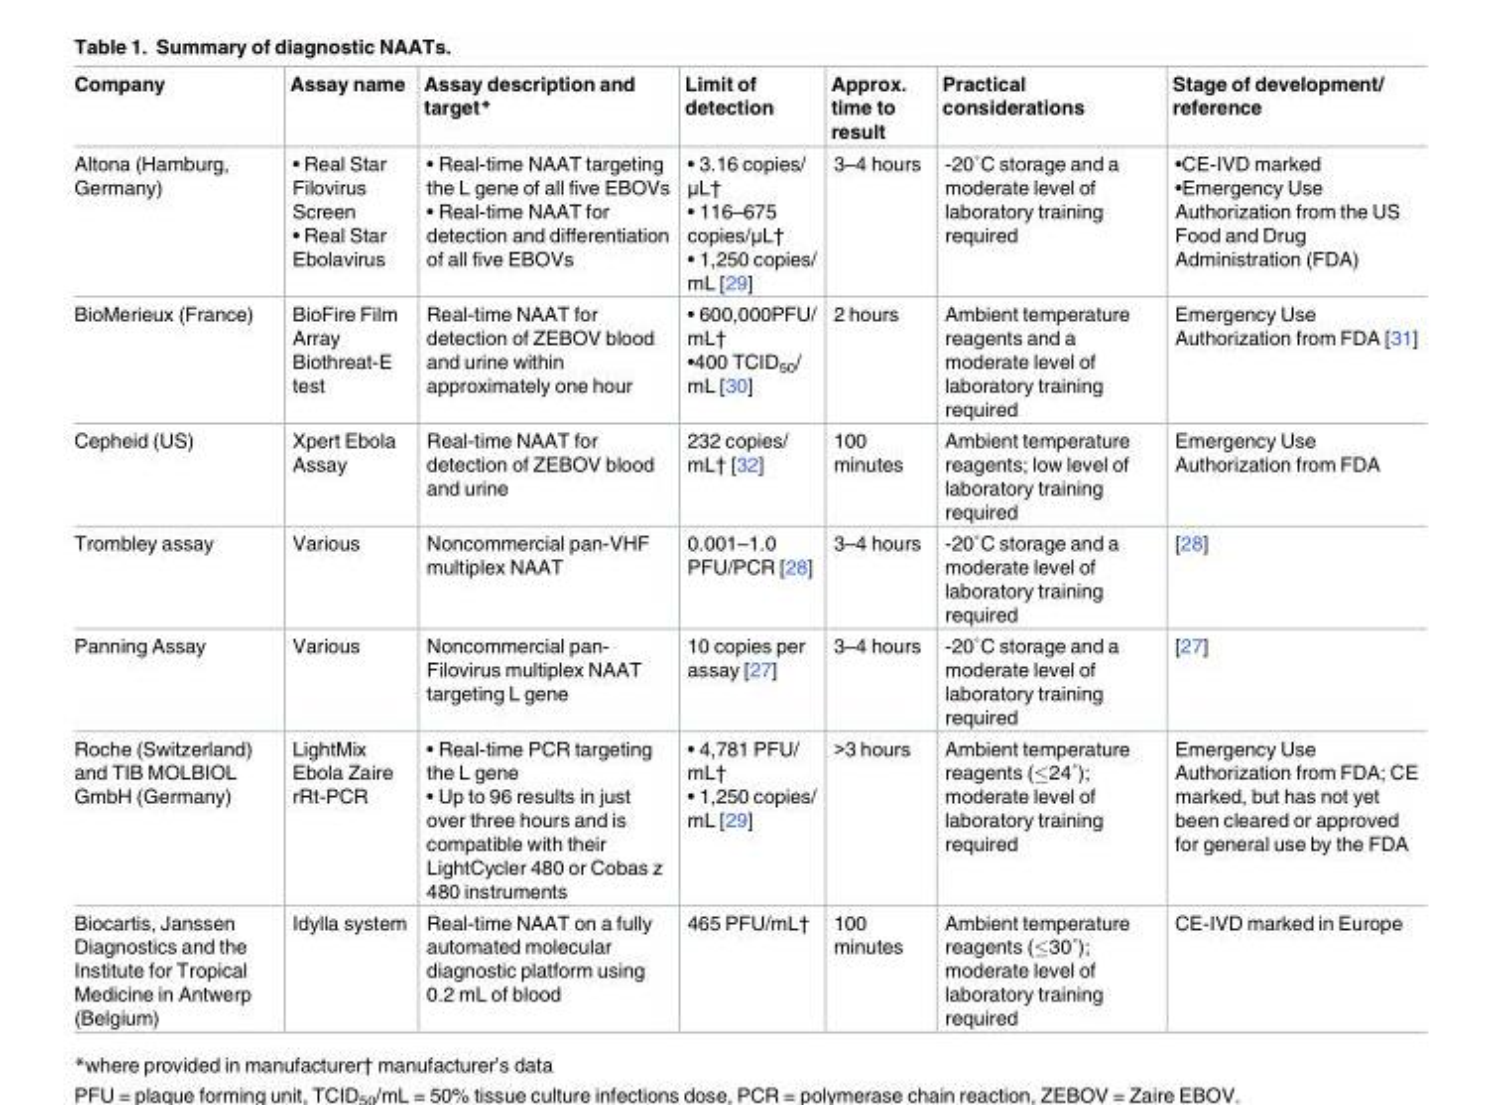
<table><thead><tr><td>Company</td><td>Assay name</td><td>Assay description and target*</td><td>Limit of detection</td><td>Approx. time to result</td><td>Practical considerations</td><td>Stage of development/ reference</td></tr></thead><tbody><tr><td>Altona (Hamburg, Germany)</td><td>• Real Star Filovirus Screen • Real Star Ebolavirus</td><td>• Real-time NAAT targeting the L gene of all five EBOVs • Real-time NAAT for detection and differentiation of all five EBOVs</td><td>• 3.16 copies/ μL† • 116–675 copies/μL† • 1,250 copies/ mL [29]</td><td>3–4 hours</td><td>-20˚C storage and a moderate level of laboratory training required</td><td>•CE-IVD marked •Emergency Use Authorization from the US Food and Drug Administration (FDA)</td></tr><tr><td>BioMerieux (France)</td><td>BioFire Film Array Biothreat-E test</td><td>Real-time NAAT for detection of ZEBOV blood and urine within approximately one hour</td><td>• 600,000PFU/ mL† •400 TCID<sub>50</sub>/ mL [30]</td><td>2 hours</td><td>Ambient temperature reagents and a moderate level of laboratory training required</td><td>Emergency Use Authorization from FDA [31]</td></tr><tr><td>Cepheid (US)</td><td>Xpert Ebola Assay</td><td>Real-time NAAT for detection of ZEBOV blood and urine</td><td>232 copies/ mL† [32]</td><td>100 minutes</td><td>Ambient temperature reagents; low level of laboratory training required</td><td>Emergency Use Authorization from FDA</td></tr><tr><td>Trombley assay</td><td>Various</td><td>Noncommercial pan-VHF multiplex NAAT</td><td>0.001–1.0 PFU/PCR [28]</td><td>3–4 hours</td><td>-20˚C storage and a moderate level of laboratory training required</td><td>[28]</td></tr><tr><td>Panning Assay</td><td>Various</td><td>Noncommercial pan- Filovirus multiplex NAAT targeting L gene</td><td>10 copies per assay [27]</td><td>3–4 hours</td><td>-20˚C storage and a moderate level of laboratory training required</td><td>[27]</td></tr><tr><td>Roche (Switzerland) and TIB MOLBIOL GmbH (Germany)</td><td>LightMix Ebola Zaire rRt-PCR</td><td>• Real-time PCR targeting the L gene • Up to 96 results in just over three hours and is compatible with their LightCycler 480 or Cobas z 480 instruments</td><td>• 4,781 PFU/ mL† • 1,250 copies/ mL [29]</td><td>&gt;3 hours</td><td>Ambient temperature reagents (≤24˚); moderate level of laboratory training required</td><td>Emergency Use Authorization from FDA; CE marked, but has not yet been cleared or approved for general use by the FDA</td></tr><tr><td>Biocartis, Janssen Diagnostics and the Institute for Tropical Medicine in Antwerp (Belgium)</td><td>Idylla system</td><td>Real-time NAAT on a fully automated molecular diagnostic platform using 0.2 mL of blood</td><td>465 PFU/mL†</td><td>100 minutes</td><td>Ambient temperature reagents (≤30˚); moderate level of laboratory training required</td><td>CE-IVD marked in Europe</td></tr></tbody></table>